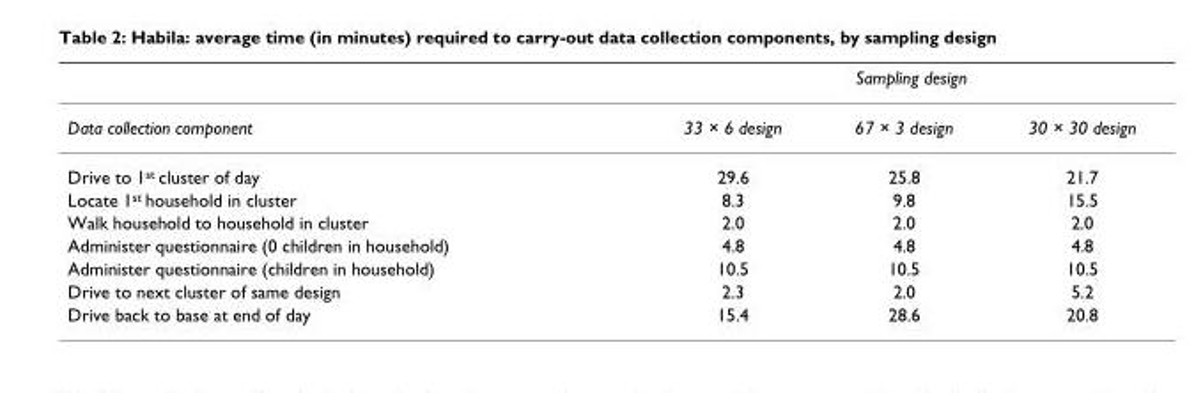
<table><thead><tr><td rowspan="2">Data collection component</td><td colspan="3">Sampling design</td></tr><tr><td>33 × 6 design</td><td>67 × 3 design</td><td>30 × 30 design</td></tr></thead><tbody><tr><td>Drive to 1<sup>st</sup> cluster of day</td><td>29.6</td><td>25.8</td><td>21.7</td></tr><tr><td>Locate 1<sup>st</sup> household in cluster</td><td>8.3</td><td>9.8</td><td>15.5</td></tr><tr><td>Walk household to household in cluster</td><td>2.0</td><td>2.0</td><td>2.0</td></tr><tr><td>Administer questionnaire (0 children in household)</td><td>4.8</td><td>4.8</td><td>4.8</td></tr><tr><td>Administer questionnaire (children in household)</td><td>10.5</td><td>10.5</td><td>10.5</td></tr><tr><td>Drive to next cluster of same design</td><td>2.3</td><td>2.0</td><td>5.2</td></tr><tr><td>Drive back to base at end of day</td><td>15.4</td><td>28.6</td><td>20.8</td></tr></tbody></table>